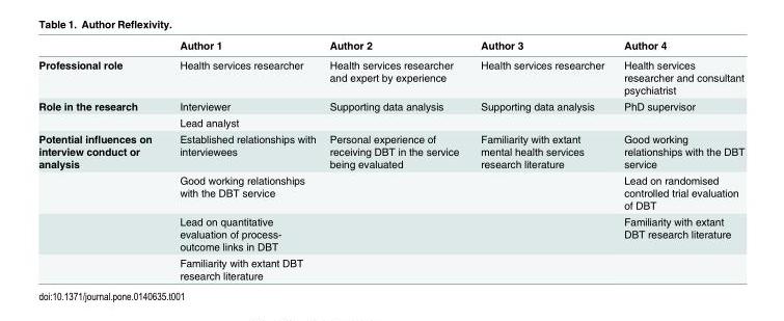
<table><thead><tr><td></td><td>Author 1</td><td>Author 2</td><td>Author 3</td><td>Author 4</td></tr></thead><tbody><tr><td>Professional role</td><td>Health services researcher</td><td>Health services researcher and expert by experience</td><td>Health services researcher</td><td>Health services researcher and consultant psychiatrist</td></tr><tr><td rowspan="2">Role in the research</td><td>Interviewer</td><td>Supporting data analysis</td><td>Supporting data analysis</td><td>PhD supervisor</td></tr><tr><td>Lead analyst</td><td></td><td></td><td></td></tr><tr><td rowspan="4">Potential influences on interview conduct or analysis</td><td>Established relationships with interviewees</td><td>Personal experience of receiving DBT in the service being evaluated</td><td>Familiarity with extant mental health services research literature</td><td>Good working relationships with the DBT service</td></tr><tr><td>Good working relationships with the DBT service</td><td></td><td></td><td>Lead on randomised controlled trial evaluation of DBT</td></tr><tr><td>Lead on quantitative evaluation of process- outcome links in DBT</td><td></td><td></td><td>Familiarity with extant DBT research literature</td></tr><tr><td>Familiarity with extant DBT research literature</td><td></td><td></td><td></td></tr></tbody></table>